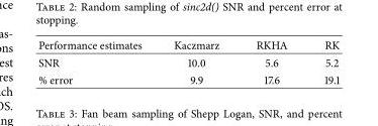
<table><thead><tr><td>Performance estimates</td><td>Kaczmarz</td><td>RKHA</td><td>RK</td></tr></thead><tbody><tr><td>SNR</td><td>10.0</td><td>5.6</td><td>5.2</td></tr><tr><td>% error</td><td>9.9</td><td>17.6</td><td>19.1</td></tr></tbody></table>